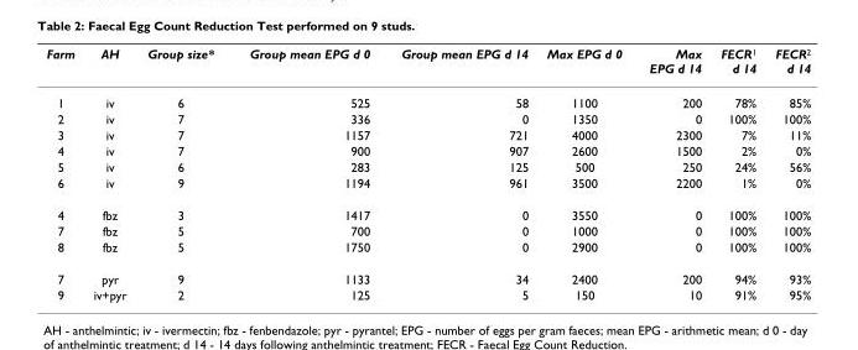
<table><thead><tr><td>Farm</td><td>AH</td><td>Group size*</td><td>Group mean EPG d 0</td><td>Group mean EPG d 14</td><td>Max EPG d 0</td><td>Max EPG d 14</td><td>FECR<sup>1</sup> d 14</td><td>FECR<sup>2</sup> d 14</td></tr></thead><tbody><tr><td>1</td><td>iv</td><td>6</td><td>525</td><td>58</td><td>1100</td><td>200</td><td>78%</td><td>85%</td></tr><tr><td>2</td><td>iv</td><td>7</td><td>336</td><td>0</td><td>1350</td><td>0</td><td>100%</td><td>100%</td></tr><tr><td>3</td><td>iv</td><td>7</td><td>1157</td><td>721</td><td>4000</td><td>2300</td><td>7%</td><td>11%</td></tr><tr><td>4</td><td>iv</td><td>7</td><td>900</td><td>907</td><td>2600</td><td>1500</td><td>2%</td><td>0%</td></tr><tr><td>5</td><td>iv</td><td>6</td><td>283</td><td>125</td><td>500</td><td>250</td><td>24%</td><td>56%</td></tr><tr><td>6</td><td>iv</td><td>9</td><td>1194</td><td>961</td><td>3500</td><td>2200</td><td>1%</td><td>0%</td></tr><tr><td>4</td><td>fbz</td><td>3</td><td>1417</td><td>0</td><td>3550</td><td>0</td><td>100%</td><td>100%</td></tr><tr><td>7</td><td>fbz</td><td>5</td><td>700</td><td>0</td><td>1000</td><td>0</td><td>100%</td><td>100%</td></tr><tr><td>8</td><td>fbz</td><td>5</td><td>1750</td><td>0</td><td>2900</td><td>0</td><td>100%</td><td>100%</td></tr><tr><td>7</td><td>pyr</td><td>9</td><td>1133</td><td>34</td><td>2400</td><td>200</td><td>94%</td><td>93%</td></tr><tr><td>9</td><td>iv+pyr</td><td>2</td><td>125</td><td>5</td><td>150</td><td>10</td><td>91%</td><td>95%</td></tr></tbody></table>